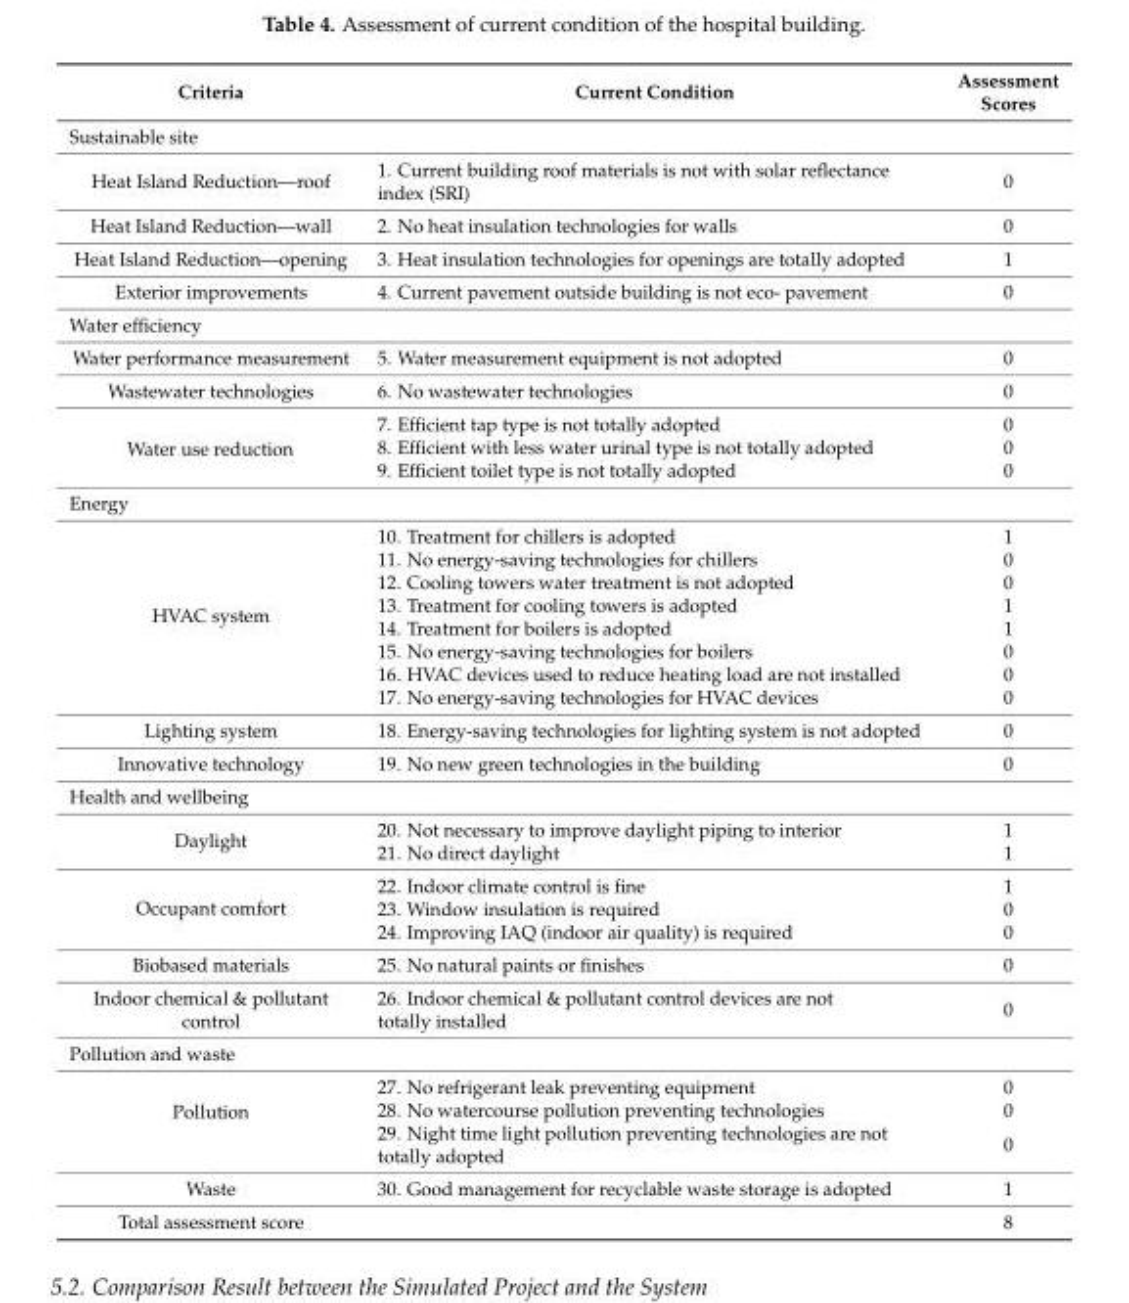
<table><thead><tr><td>Criteria</td><td>Current Condition</td><td>Assessment Scores</td></tr></thead><tbody><tr><td colspan="3">Sustainable site</td></tr><tr><td>Heat Island Reduction—roof</td><td>1. Current building roof materials is not with solar reflectance index (SRI)</td><td>0</td></tr><tr><td>Heat Island Reduction—wall</td><td>2. No heat insulation technologies for walls</td><td>0</td></tr><tr><td>Heat Island Reduction—opening</td><td>3. Heat insulation technologies for openings are totally adopted</td><td>1</td></tr><tr><td>Exterior improvements</td><td>4. Current pavement outside building is not eco- pavement</td><td>0</td></tr><tr><td colspan="3">Water efficiency</td></tr><tr><td>Water performance measurement</td><td>5. Water measurement equipment is not adopted</td><td>0</td></tr><tr><td>Wastewater technologies</td><td>6. No wastewater technologies</td><td>0</td></tr><tr><td rowspan="3">Water use reduction</td><td>7. Efficient tap type is not totally adopted</td><td>0</td></tr><tr><td>8. Efficient with less water urinal type is not totally adopted</td><td>0</td></tr><tr><td>9. Efficient toilet type is not totally adopted</td><td>0</td></tr><tr><td colspan="3">Energy</td></tr><tr><td rowspan="8">HVAC system</td><td>10. Treatment for chillers is adopted</td><td>1</td></tr><tr><td>11. No energy-saving technologies for chillers</td><td>0</td></tr><tr><td>12. Cooling towers water treatment is not adopted</td><td>0</td></tr><tr><td>13. Treatment for cooling towers is adopted</td><td>1</td></tr><tr><td>14. Treatment for boilers is adopted</td><td>1</td></tr><tr><td>15. No energy-saving technologies for boilers</td><td>0</td></tr><tr><td>16. HVAC devices used to reduce heating load are not installed</td><td>0</td></tr><tr><td>17. No energy-saving technologies for HVAC devices</td><td>0</td></tr><tr><td>Lighting system</td><td>18. Energy-saving technologies for lighting system is not adopted</td><td>0</td></tr><tr><td>Innovative technology</td><td>19. No new green technologies in the building</td><td>0</td></tr><tr><td colspan="3">Health and wellbeing</td></tr><tr><td rowspan="2">Daylight</td><td>20. Not necessary to improve daylight piping to interior</td><td>1</td></tr><tr><td>21. No direct daylight</td><td>1</td></tr><tr><td rowspan="3">Occupant comfort</td><td>22. Indoor climate control is fine</td><td>1</td></tr><tr><td>23. Window insulation is required</td><td>0</td></tr><tr><td>24. Improving IAQ (indoor air quality) is required</td><td>0</td></tr><tr><td>Biobased materials</td><td>25. No natural paints or finishes</td><td>0</td></tr><tr><td>Indoor chemical &amp; pollutant control</td><td>26. Indoor chemical &amp; pollutant control devices are not totally installed</td><td>0</td></tr><tr><td colspan="3">Pollution and waste</td></tr><tr><td rowspan="3">Pollution</td><td>27. No refrigerant leak preventing equipment</td><td>0</td></tr><tr><td>28. No watercourse pollution preventing technologies</td><td>0</td></tr><tr><td>29. Night time light pollution preventing technologies are not totally adopted</td><td>0</td></tr><tr><td>Waste</td><td>30. Good management for recyclable waste storage is adopted</td><td>1</td></tr><tr><td>Total assessment score</td><td></td><td>8</td></tr></tbody></table>